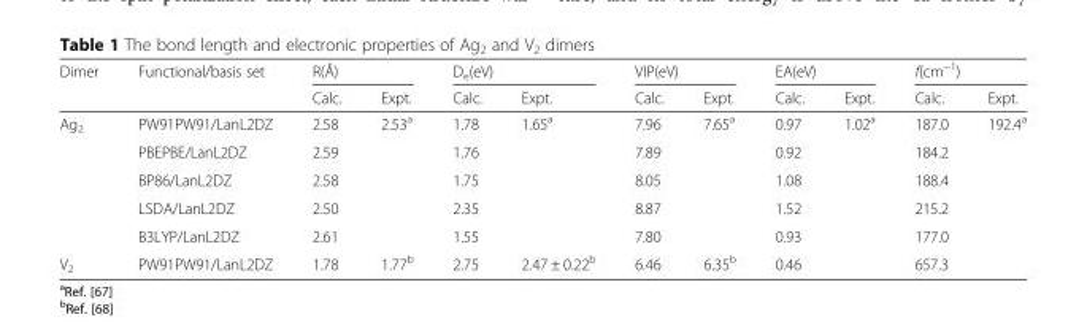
<table><thead><tr><td rowspan="2">Dimer</td><td rowspan="2">Functional/basis set</td><td colspan="2">R(Å)</td><td colspan="2">D<sub>e</sub>(eV)</td><td colspan="2">VIP(eV)</td><td colspan="2">EA(eV)</td><td colspan="2">f(cm<sup>−1</sup>)</td></tr><tr><td>Calc.</td><td>Expt.</td><td>Calc.</td><td>Expt.</td><td>Calc.</td><td>Expt.</td><td>Calc.</td><td>Expt.</td><td>Calc.</td><td>Expt.</td></tr></thead><tbody><tr><td rowspan="5">Ag<sub>2</sub></td><td>PW91PW91/LanL2DZ</td><td>2.58</td><td>2.53<sup>a</sup></td><td>1.78</td><td>1.65<sup>a</sup></td><td>7.96</td><td>7.65<sup>a</sup></td><td>0.97</td><td>1.02<sup>a</sup></td><td>187.0</td><td>192.4<sup>a</sup></td></tr><tr><td>PBEPBE/LanL2DZ</td><td>2.59</td><td></td><td>1.76</td><td></td><td>7.89</td><td></td><td>0.92</td><td></td><td>184.2</td><td></td></tr><tr><td>BP86/LanL2DZ</td><td>2.58</td><td></td><td>1.75</td><td></td><td>8.05</td><td></td><td>1.08</td><td></td><td>188.4</td><td></td></tr><tr><td>LSDA/LanL2DZ</td><td>2.50</td><td></td><td>2.35</td><td></td><td>8.87</td><td></td><td>1.52</td><td></td><td>215.2</td><td></td></tr><tr><td>B3LYP/LanL2DZ</td><td>2.61</td><td></td><td>1.55</td><td></td><td>7.80</td><td></td><td>0.93</td><td></td><td>177.0</td><td></td></tr><tr><td>V<sub>2</sub></td><td>PW91PW91/LanL2DZ</td><td>1.78</td><td>1.77<sup>b</sup></td><td>2.75</td><td>2.47 ± 0.22<sup>b</sup></td><td>6.46</td><td>6.35<sup>b</sup></td><td>0.46</td><td></td><td>657.3</td><td></td></tr></tbody></table>